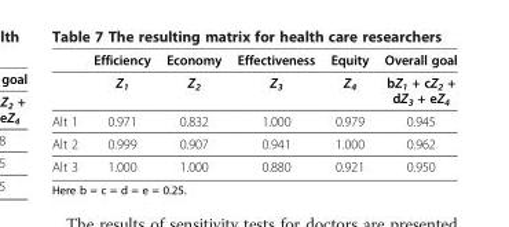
<table><thead><tr><td></td><td>Efficiency</td><td>Economy</td><td>Effectiveness</td><td>Equity</td><td>Overall goal</td></tr></thead><tbody><tr><td></td><td>Z<sub>1</sub></td><td>Z<sub>2</sub></td><td>Z<sub>3</sub></td><td>Z<sub>4</sub></td><td>bZ1 + cZ2 + dZ3 + eZ4</td></tr><tr><td>Alt 1</td><td>0.971</td><td>0.832</td><td>1.000</td><td>0.979</td><td>0.945</td></tr><tr><td>Alt 2</td><td>0.999</td><td>0.907</td><td>0.941</td><td>1.000</td><td>0.962</td></tr><tr><td>Alt 3</td><td>1.000</td><td>1.000</td><td>0.880</td><td>0.921</td><td>0.950</td></tr></tbody></table>